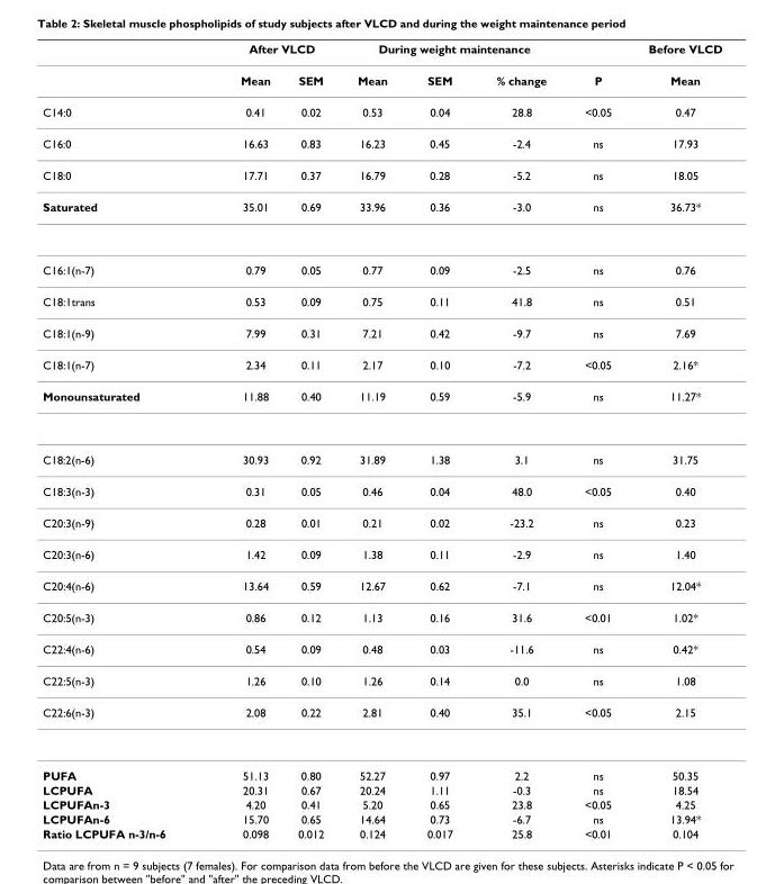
<table><thead><tr><td rowspan="2"></td><td colspan="2">After VLCD</td><td colspan="3">During weight maintenance</td><td rowspan="2">P</td><td rowspan="2">Before VLCD Mean</td></tr><tr><td>Mean</td><td>SEM</td><td>Mean</td><td>SEM</td><td>% change</td></tr></thead><tbody><tr><td>C14:0</td><td>0.41</td><td>0.02</td><td>0.53</td><td>0.04</td><td>28.8</td><td>&lt;0.05</td><td>0.47</td></tr><tr><td>C16:0</td><td>16.63</td><td>0.83</td><td>16.23</td><td>0.45</td><td>-2.4</td><td>ns</td><td>17.93</td></tr><tr><td>C18:0</td><td>17.71</td><td>0.37</td><td>16.79</td><td>0.28</td><td>-5.2</td><td>ns</td><td>18.05</td></tr><tr><td>Saturated</td><td>35.01</td><td>0.69</td><td>33.96</td><td>0.36</td><td>-3.0</td><td>ns</td><td>36.73*</td></tr><tr><td>C16:1(n-7)</td><td>0.79</td><td>0.05</td><td>0.77</td><td>0.09</td><td>-2.5</td><td>ns</td><td>0.76</td></tr><tr><td>C18:1trans</td><td>0.53</td><td>0.09</td><td>0.75</td><td>0.11</td><td>41.8</td><td>ns</td><td>0.51</td></tr><tr><td>C18:1(n-9)</td><td>7.99</td><td>0.31</td><td>7.21</td><td>0.42</td><td>-9.7</td><td>ns</td><td>7.69</td></tr><tr><td>C18:1(n-7)</td><td>2.34</td><td>0.11</td><td>2.17</td><td>0.10</td><td>-7.2</td><td>&lt;0.05</td><td>2.16*</td></tr><tr><td>Monounsaturated</td><td>11.88</td><td>0.40</td><td>11.19</td><td>0.59</td><td>-5.9</td><td>ns</td><td>11.27*</td></tr><tr><td>C18:2(n-6)</td><td>30.93</td><td>0.92</td><td>31.89</td><td>1.38</td><td>3.1</td><td>ns</td><td>31.75</td></tr><tr><td>C18:3(n-3)</td><td>0.31</td><td>0.05</td><td>0.46</td><td>0.04</td><td>48.0</td><td>&lt;0.05</td><td>0.40</td></tr><tr><td>C20:3(n-9)</td><td>0.28</td><td>0.01</td><td>0.21</td><td>0.02</td><td>-23.2</td><td>ns</td><td>0.23</td></tr><tr><td>C20:3(n-6)</td><td>1.42</td><td>0.09</td><td>1.38</td><td>0.11</td><td>-2.9</td><td>ns</td><td>1.40</td></tr><tr><td>C20:4(n-6)</td><td>13.64</td><td>0.59</td><td>12.67</td><td>0.62</td><td>-7.1</td><td>ns</td><td>12.04*</td></tr><tr><td>C20:5(n-3)</td><td>0.86</td><td>0.12</td><td>1.13</td><td>0.16</td><td>31.6</td><td>&lt;0.01</td><td>1.02*</td></tr><tr><td>C22:4(n-6)</td><td>0.54</td><td>0.09</td><td>0.48</td><td>0.03</td><td>-11.6</td><td>ns</td><td>0.42*</td></tr><tr><td>C22:5(n-3)</td><td>1.26</td><td>0.10</td><td>1.26</td><td>0.14</td><td>0.0</td><td>ns</td><td>1.08</td></tr><tr><td>C22:6(n-3)</td><td>2.08</td><td>0.22</td><td>2.81</td><td>0.40</td><td>35.1</td><td>&lt;0.05</td><td>2.15</td></tr><tr><td>PUFA</td><td>51.13</td><td>0.80</td><td>52.27</td><td>0.97</td><td>2.2</td><td>ns</td><td>50.35</td></tr><tr><td>LCPUFA</td><td>20.31</td><td>0.67</td><td>20.24</td><td>1.11</td><td>-0.3</td><td>ns</td><td>18.54</td></tr><tr><td>LCPUFAn-3</td><td>4.20</td><td>0.41</td><td>5.20</td><td>0.65</td><td>23.8</td><td>&lt;0.05</td><td>4.25</td></tr><tr><td>LCPUFAn-6</td><td>15.70</td><td>0.65</td><td>14.64</td><td>0.73</td><td>-6.7</td><td>ns</td><td>13.94*</td></tr><tr><td>Ratio LCPUFA n-3/n-6</td><td>0.098</td><td>0.012</td><td>0.124</td><td>0.017</td><td>25.8</td><td>&lt;0.01</td><td>0.104</td></tr></tbody></table>